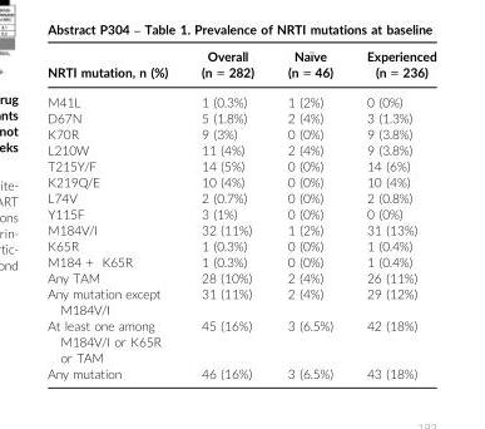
<table><thead><tr><td>NRTI mutation, n (%)</td><td>Overall (n = 282)</td><td>Na€ıve (n = 46)</td><td>Experienced (n = 236)</td></tr></thead><tbody><tr><td>M41L</td><td>1 (0.3%)</td><td>1 (2%)</td><td>0 (0%)</td></tr><tr><td>D67N</td><td>5 (1.8%)</td><td>2 (4%)</td><td>3 (1.3%)</td></tr><tr><td>K70R</td><td>9 (3%)</td><td>0 (0%)</td><td>9 (3.8%)</td></tr><tr><td>L210W</td><td>11 (4%)</td><td>2 (4%)</td><td>9 (3.8%)</td></tr><tr><td>T215Y/F</td><td>14 (5%)</td><td>0 (0%)</td><td>14 (6%)</td></tr><tr><td>K219Q/E</td><td>10 (4%)</td><td>0 (0%)</td><td>10 (4%)</td></tr><tr><td>L74V</td><td>2 (0.7%)</td><td>0 (0%)</td><td>2 (0.8%)</td></tr><tr><td>Y115F</td><td>3 (1%)</td><td>0 (0%)</td><td>0 (0%)</td></tr><tr><td>M184V/I</td><td>32 (11%)</td><td>1 (2%)</td><td>31 (13%)</td></tr><tr><td>K65R</td><td>1 (0.3%)</td><td>0 (0%)</td><td>1 (0.4%)</td></tr><tr><td>M184 + K65R</td><td>1 (0.3%)</td><td>0 (0%)</td><td>1 (0.4%)</td></tr><tr><td>Any TAM</td><td>28 (10%)</td><td>2 (4%)</td><td>26 (11%)</td></tr><tr><td>Any mutation except M184V/I</td><td>31 (11%)</td><td>2 (4%)</td><td>29 (12%)</td></tr><tr><td>At least one among M184V/I or K65R or TAM</td><td>45 (16%)</td><td>3 (6.5%)</td><td>42 (18%)</td></tr><tr><td>Any mutation</td><td>46 (16%)</td><td>3 (6.5%)</td><td>43 (18%)</td></tr></tbody></table>